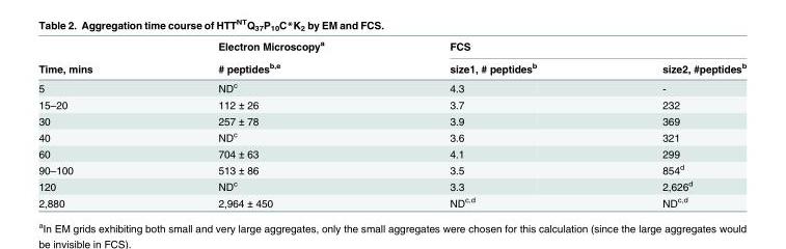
<table><thead><tr><td rowspan="2">Time, mins</td><td rowspan="2">Electron Microscopy<sup>a</sup> # peptides<sup>b,e</sup></td><td colspan="2">FCS</td></tr><tr><td>size1, # peptides<sup>b</sup></td><td>size2, #peptides<sup>b</sup></td></tr></thead><tbody><tr><td>5</td><td>ND<sup>c</sup></td><td>4.3</td><td>-</td></tr><tr><td>15–20</td><td>112 ± 26</td><td>3.7</td><td>232</td></tr><tr><td>30</td><td>257 ± 78</td><td>3.9</td><td>369</td></tr><tr><td>40</td><td>ND<sup>c</sup></td><td>3.6</td><td>321</td></tr><tr><td>60</td><td>704 ± 63</td><td>4.1</td><td>299</td></tr><tr><td>90–100</td><td>513 ± 86</td><td>3.5</td><td>854<sup>d</sup></td></tr><tr><td>120</td><td>ND<sup>c</sup></td><td>3.3</td><td>2,626<sup>d</sup></td></tr><tr><td>2,880</td><td>2,964 ± 450</td><td>ND<sup>c,d</sup></td><td>ND<sup>c,d</sup></td></tr></tbody></table>